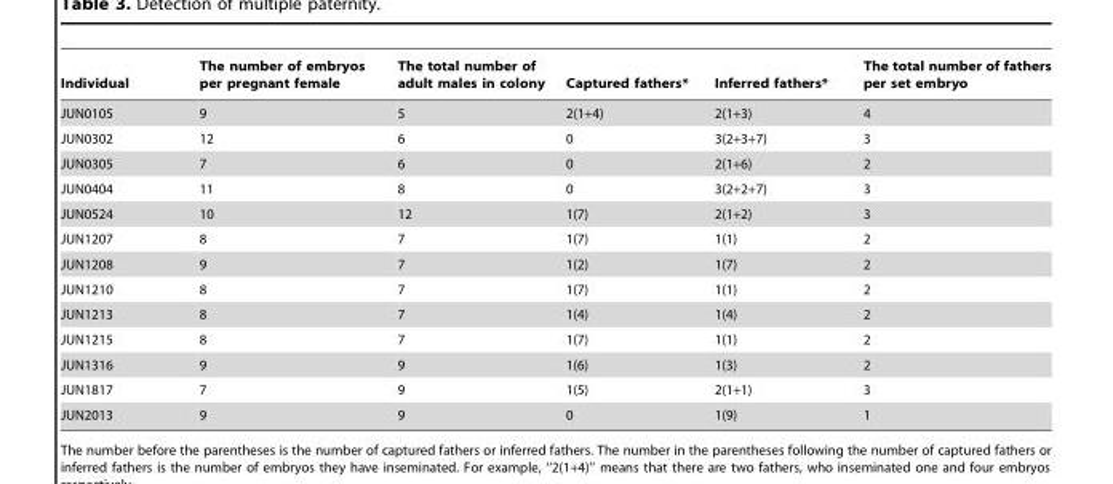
<table><thead><tr><td>Individual</td><td>The number of embryos per pregnant female</td><td>The total number of adult males in colony</td><td>Captured fathers*</td><td>Inferred fathers*</td><td>The total number of fathers per set embryo</td></tr></thead><tbody><tr><td>JUN0105</td><td>9</td><td>5</td><td>2(1+4)</td><td>2(1+3)</td><td>4</td></tr><tr><td>JUN0302</td><td>12</td><td>6</td><td>0</td><td>3(2+3+7)</td><td>3</td></tr><tr><td>JUN0305</td><td>7</td><td>6</td><td>0</td><td>2(1+6)</td><td>2</td></tr><tr><td>JUN0404</td><td>11</td><td>8</td><td>0</td><td>3(2+2+7)</td><td>3</td></tr><tr><td>JUN0524</td><td>10</td><td>12</td><td>1(7)</td><td>2(1+2)</td><td>3</td></tr><tr><td>JUN1207</td><td>8</td><td>7</td><td>1(7)</td><td>1(1)</td><td>2</td></tr><tr><td>JUN1208</td><td>9</td><td>7</td><td>1(2)</td><td>1(7)</td><td>2</td></tr><tr><td>JUN1210</td><td>8</td><td>7</td><td>1(7)</td><td>1(1)</td><td>2</td></tr><tr><td>JUN1213</td><td>8</td><td>7</td><td>1(4)</td><td>1(4)</td><td>2</td></tr><tr><td>JUN1215</td><td>8</td><td>7</td><td>1(7)</td><td>1(1)</td><td>2</td></tr><tr><td>JUN1316</td><td>9</td><td>9</td><td>1(6)</td><td>1(3)</td><td>2</td></tr><tr><td>JUN1817</td><td>7</td><td>9</td><td>1(5)</td><td>2(1+1)</td><td>3</td></tr><tr><td>JUN2013</td><td>9</td><td>9</td><td>0</td><td>1(9)</td><td>1</td></tr></tbody></table>